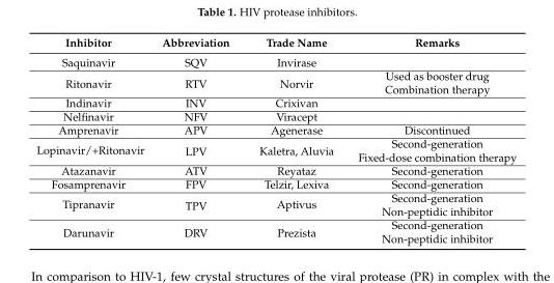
<table><thead><tr><td>Inhibitor</td><td>Abbreviation</td><td>Trade Name</td><td>Remarks</td></tr></thead><tbody><tr><td>Saquinavir</td><td>SQV</td><td>Invirase</td><td></td></tr><tr><td rowspan="2">Ritonavir</td><td rowspan="2">RTV</td><td rowspan="2">Norvir</td><td>Used as booster drug</td></tr><tr><td>Combination therapy</td></tr><tr><td>Indinavir</td><td>INV</td><td>Crixivan</td><td></td></tr><tr><td>Nelfinavir</td><td>NFV</td><td>Viracept</td><td></td></tr><tr><td>Amprenavir</td><td>APV</td><td>Agenerase</td><td>Discontinued</td></tr><tr><td rowspan="2">Lopinavir/+Ritonavir</td><td rowspan="2">LPV</td><td rowspan="2">Kaletra, Aluvia</td><td>Second-generation</td></tr><tr><td>Fixed-dose combination therapy</td></tr><tr><td>Atazanavir</td><td>ATV</td><td>Reyataz</td><td>Second-generation</td></tr><tr><td>Fosamprenavir</td><td>FPV</td><td>Telzir, Lexiva</td><td>Second-generation</td></tr><tr><td rowspan="2">Tipranavir</td><td rowspan="2">TPV</td><td rowspan="2">Aptivus</td><td>Second-generation</td></tr><tr><td>Non-peptidic inhibitor</td></tr><tr><td rowspan="2">Darunavir</td><td rowspan="2">DRV</td><td rowspan="2">Prezista</td><td>Second-generation</td></tr><tr><td>Non-peptidic inhibitor</td></tr></tbody></table>